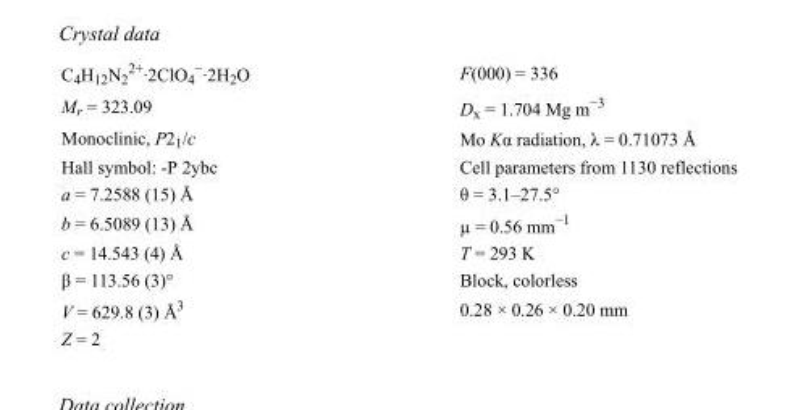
<table><tbody><tr><td>C<sub>4</sub>H<sub>12</sub>N<sub>2</sub> <sup>2+</sup>·2ClO<sub>4</sub> <sup>−</sup>·2H<sub>2</sub>O</td><td>F(000) = 336</td></tr><tr><td>M<sub>r</sub> = 323.09</td><td>D<sub>x</sub> = 1.704 Mg m<sup>−3</sup></td></tr><tr><td>Monoclinic, P2<sub>1</sub>/c</td><td>Mo Kα radiation, λ = 0.71073 Å</td></tr><tr><td>Hall symbol: -P 2ybc</td><td>Cell parameters from 1130 reflections</td></tr><tr><td>a = 7.2588 (15) Å</td><td>θ = 3.1–27.5°</td></tr><tr><td>b = 6.5089 (13) Å</td><td>µ = 0.56 mm<sup>−1</sup></td></tr><tr><td>c = 14.543 (4) Å</td><td>T = 293 K</td></tr><tr><td>β = 113.56 (3)°</td><td>Block, colorless</td></tr><tr><td>V = 629.8 (3) Å<sup>3</sup></td><td>0.28 × 0.26 × 0.20 mm</td></tr><tr><td>Z = 2</td><td></td></tr></tbody></table>